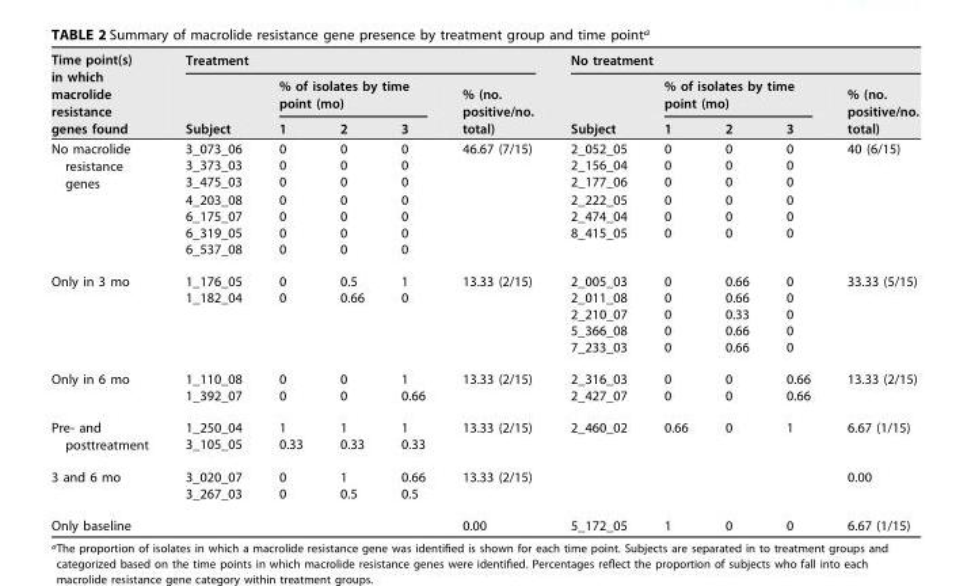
<table><thead><tr><td rowspan="3">Time point(s) in which macrolide resistance genes found</td><td colspan="5">Treatment</td><td colspan="5">No treatment</td></tr><tr><td rowspan="2">Subject</td><td colspan="3">% of isolates by time point (mo)</td><td rowspan="2">% (no. positive/no. total)</td><td rowspan="2">Subject</td><td colspan="3">% of isolates by time point (mo)</td><td rowspan="2">% (no. positive/no. total)</td></tr><tr><td>1</td><td>2</td><td>3</td><td>1</td><td>2</td><td>3</td></tr></thead><tbody><tr><td rowspan="7">No macrolide resistance genes</td><td>3_073_06</td><td>0</td><td>0</td><td>0</td><td>46.67 (7/15)</td><td>2_052_05</td><td>0</td><td>0</td><td>0</td><td>40 (6/15)</td></tr><tr><td>3_373_03</td><td>0</td><td>0</td><td>0</td><td></td><td>2_156_04</td><td>0</td><td>0</td><td>0</td><td></td></tr><tr><td>3_475_03</td><td>0</td><td>0</td><td>0</td><td></td><td>2_177_06</td><td>0</td><td>0</td><td>0</td><td></td></tr><tr><td>4_203_08</td><td>0</td><td>0</td><td>0</td><td></td><td>2_222_05</td><td>0</td><td>0</td><td>0</td><td></td></tr><tr><td>6_175_07</td><td>0</td><td>0</td><td>0</td><td></td><td>2_474_04</td><td>0</td><td>0</td><td>0</td><td></td></tr><tr><td>6_319_05</td><td>0</td><td>0</td><td>0</td><td></td><td>8_415_05</td><td>0</td><td>0</td><td>0</td><td></td></tr><tr><td>6_537_08</td><td>0</td><td>0</td><td>0</td><td></td><td></td><td></td><td></td><td></td><td></td></tr><tr><td rowspan="5">Only in 3 mo</td><td>1_176_05</td><td>0</td><td>0.5</td><td>1</td><td>13.33 (2/15)</td><td>2_005_03</td><td>0</td><td>0.66</td><td>0</td><td>33.33 (5/15)</td></tr><tr><td>1_182_04</td><td>0</td><td>0.66</td><td>0</td><td></td><td>2_011_08</td><td>0</td><td>0.66</td><td>0</td><td></td></tr><tr><td></td><td></td><td></td><td></td><td></td><td>2_210_07</td><td>0</td><td>0.33</td><td>0</td><td></td></tr><tr><td></td><td></td><td></td><td></td><td></td><td>5_366_08</td><td>0</td><td>0.66</td><td>0</td><td></td></tr><tr><td></td><td></td><td></td><td></td><td></td><td>7_233_03</td><td>0</td><td>0.66</td><td>0</td><td></td></tr><tr><td rowspan="2">Only in 6 mo</td><td>1_110_08</td><td>0</td><td>0</td><td>1</td><td>13.33 (2/15)</td><td>2_316_03</td><td>0</td><td>0</td><td>0.66</td><td>13.33 (2/15)</td></tr><tr><td>1_392_07</td><td>0</td><td>0</td><td>0.66</td><td></td><td>2_427_07</td><td>0</td><td>0</td><td>0.66</td><td></td></tr><tr><td rowspan="2">Pre- and posttreatment</td><td>1_250_04</td><td>1</td><td>1</td><td>1</td><td>13.33 (2/15)</td><td>2_460_02</td><td>0.66</td><td>0</td><td>1</td><td>6.67 (1/15)</td></tr><tr><td>3_105_05</td><td>0.33</td><td>0.33</td><td>0.33</td><td></td><td></td><td></td><td></td><td></td><td></td></tr><tr><td rowspan="2">3 and 6 mo</td><td>3_020_07</td><td>0</td><td>1</td><td>0.66</td><td>13.33 (2/15)</td><td></td><td></td><td></td><td></td><td>0.00</td></tr><tr><td>3_267_03</td><td>0</td><td>0.5</td><td>0.5</td><td></td><td></td><td></td><td></td><td></td><td></td></tr><tr><td>Only baseline</td><td></td><td></td><td></td><td></td><td>0.00</td><td>5_172_05</td><td>1</td><td>0</td><td>0</td><td>6.67 (1/15)</td></tr></tbody></table>